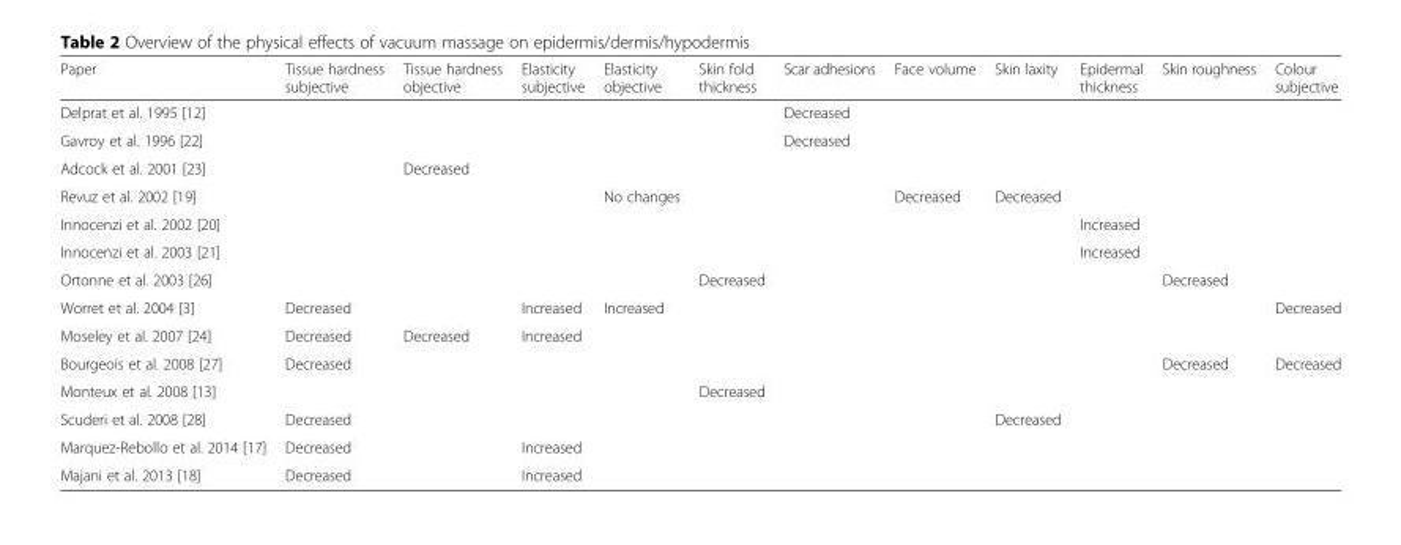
<table><thead><tr><td>Paper</td><td>Tissue hardness subjective</td><td>Tissue hardness objective</td><td>Elasticity subjective</td><td>Elasticity objective</td><td>Skin fold thickness</td><td>Scar adhesions</td><td>Face volume</td><td>Skin laxity</td><td>Epidermal thickness</td><td>Skin roughness</td><td>Colour subjective</td></tr></thead><tbody><tr><td>Delprat et al. 1995 [12]</td><td></td><td></td><td></td><td></td><td></td><td>Decreased</td><td></td><td></td><td></td><td></td><td></td></tr><tr><td>Gavroy et al. 1996 [22]</td><td></td><td></td><td></td><td></td><td></td><td>Decreased</td><td></td><td></td><td></td><td></td><td></td></tr><tr><td>Adcock et al. 2001 [23]</td><td></td><td>Decreased</td><td></td><td></td><td></td><td></td><td></td><td></td><td></td><td></td><td></td></tr><tr><td>Revuz et al. 2002 [19]</td><td></td><td></td><td></td><td>No changes</td><td></td><td></td><td>Decreased</td><td>Decreased</td><td></td><td></td><td></td></tr><tr><td>Innocenzi et al. 2002 [20]</td><td></td><td></td><td></td><td></td><td></td><td></td><td></td><td></td><td>Increased</td><td></td><td></td></tr><tr><td>Innocenzi et al. 2003 [21]</td><td></td><td></td><td></td><td></td><td></td><td></td><td></td><td></td><td>Increased</td><td></td><td></td></tr><tr><td>Ortonne et al. 2003 [26]</td><td></td><td></td><td></td><td></td><td>Decreased</td><td></td><td></td><td></td><td></td><td>Decreased</td><td></td></tr><tr><td>Worret et al. 2004 [3]</td><td>Decreased</td><td></td><td>Increased</td><td>Increased</td><td></td><td></td><td></td><td></td><td></td><td></td><td>Decreased</td></tr><tr><td>Moseley et al. 2007 [24]</td><td>Decreased</td><td>Decreased</td><td>Increased</td><td></td><td></td><td></td><td></td><td></td><td></td><td></td><td></td></tr><tr><td>Bourgeois et al. 2008 [27]</td><td>Decreased</td><td></td><td></td><td></td><td></td><td></td><td></td><td></td><td></td><td>Decreased</td><td>Decreased</td></tr><tr><td>Monteux et al. 2008 [13]</td><td></td><td></td><td></td><td></td><td>Decreased</td><td></td><td></td><td></td><td></td><td></td><td></td></tr><tr><td>Scuderi et al. 2008 [28]</td><td>Decreased</td><td></td><td></td><td></td><td></td><td></td><td></td><td>Decreased</td><td></td><td></td><td></td></tr><tr><td>Marquez-Rebollo et al. 2014 [17]</td><td>Decreased</td><td></td><td>Increased</td><td></td><td></td><td></td><td></td><td></td><td></td><td></td><td></td></tr><tr><td>Majani et al. 2013 [18]</td><td>Decreased</td><td></td><td>Increased</td><td></td><td></td><td></td><td></td><td></td><td></td><td></td><td></td></tr></tbody></table>